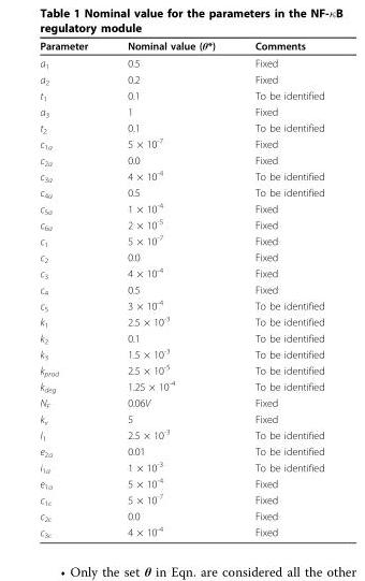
<table><thead><tr><td>Parameter</td><td>Nominal value (θ*)</td><td>Comments</td></tr></thead><tbody><tr><td>a<sub>1</sub></td><td>0.5</td><td>Fixed</td></tr><tr><td>a<sub>2</sub></td><td>0.2</td><td>Fixed</td></tr><tr><td>t<sub>1</sub></td><td>0.1</td><td>To be identified</td></tr><tr><td>a<sub>3</sub></td><td>1</td><td>Fixed</td></tr><tr><td>t<sub>2</sub></td><td>0.1</td><td>To be identified</td></tr><tr><td>c<sub>1a</sub></td><td>5 × 10<sup>-7</sup></td><td>Fixed</td></tr><tr><td>c<sub>2a</sub></td><td>0.0</td><td>Fixed</td></tr><tr><td>c<sub>3a</sub></td><td>4 × 10<sup>-4</sup></td><td>To be identified</td></tr><tr><td>c<sub>4a</sub></td><td>0.5</td><td>To be identified</td></tr><tr><td>c<sub>5a</sub></td><td>1 × 10<sup>-4</sup></td><td>Fixed</td></tr><tr><td>c<sub>6a</sub></td><td>2 × 10<sup>-5</sup></td><td>Fixed</td></tr><tr><td>c<sub>1</sub></td><td>5 × 10<sup>-7</sup></td><td>Fixed</td></tr><tr><td>c<sub>2</sub></td><td>0.0</td><td>Fixed</td></tr><tr><td>c<sub>3</sub></td><td>4 × 10<sup>-4</sup></td><td>Fixed</td></tr><tr><td>c<sub>4</sub></td><td>0.5</td><td>Fixed</td></tr><tr><td>c<sub>5</sub></td><td>3 × 10<sup>-4</sup></td><td>To be identified</td></tr><tr><td>k<sub>1</sub></td><td>2.5 × 10<sup>-3</sup></td><td>To be identified</td></tr><tr><td>k<sub>2</sub></td><td>0.1</td><td>To be identified</td></tr><tr><td>k<sub>3</sub></td><td>1.5 × 10<sup>-3</sup></td><td>To be identified</td></tr><tr><td>k<sub>prod</sub></td><td>2.5 × 10<sup>-5</sup></td><td>To be identified</td></tr><tr><td>k<sub>deg</sub></td><td>1.25 × 10<sup>-4</sup></td><td>To be identified</td></tr><tr><td>N<sub>F</sub></td><td>0.06V</td><td>Fixed</td></tr><tr><td>k<sub>v</sub></td><td>5</td><td>Fixed</td></tr><tr><td>I<sub>1</sub></td><td>2.5 × 10<sup>-3</sup></td><td>To be identified</td></tr><tr><td>e<sub>2a</sub></td><td>0.01</td><td>To be identified</td></tr><tr><td>i<sub>1a</sub></td><td>1 × 10<sup>-3</sup></td><td>To be identified</td></tr><tr><td>e<sub>1a</sub></td><td>5 × 10<sup>-4</sup></td><td>Fixed</td></tr><tr><td>c<sub>1c</sub></td><td>5 × 10<sup>-7</sup></td><td>Fixed</td></tr><tr><td>c<sub>2c</sub></td><td>0.0</td><td>Fixed</td></tr><tr><td>c<sub>3c</sub></td><td>4 × 10<sup>-4</sup></td><td>Fixed</td></tr></tbody></table>